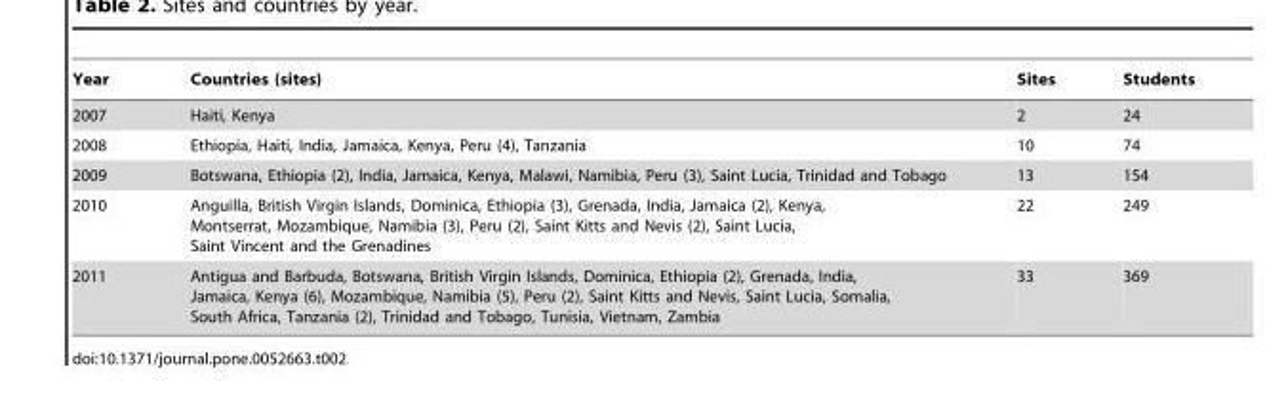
<table><thead><tr><td>Year</td><td>Countries (sites)</td><td>Sites</td><td>Students</td></tr></thead><tbody><tr><td>2007</td><td>Haiti, Kenya</td><td>2</td><td>24</td></tr><tr><td>2008</td><td>Ethiopia, Haiti, India, Jamaica, Kenya, Peru (4), Tanzania</td><td>10</td><td>74</td></tr><tr><td>2009</td><td>Botswana, Ethiopia (2), India, Jamaica, Kenya, Malawi, Namibia, Peru (3), Saint Lucia, Trinidad and Tobago</td><td>13</td><td>154</td></tr><tr><td>2010</td><td>Anguilla, British Virgin Islands, Dominica, Ethiopia (3), Grenada, India, Jamaica (2), Kenya, Montserrat, Mozambique, Namibia (3), Peru (2), Saint Kitts and Nevis (2), Saint Lucia, Saint Vincent and the Grenadines</td><td>22</td><td>249</td></tr><tr><td>2011</td><td>Antigua and Barbuda, Botswana, British Virgin Islands, Dominica, Ethiopia (2), Grenada, India, Jamaica, Kenya (6), Mozambique, Namibia (5), Peru (2), Saint Kitts and Nevis, Saint Lucia, Somalia, South Africa, Tanzania (2), Trinidad and Tobago, Tunisia, Vietnam, Zambia</td><td>33</td><td>369</td></tr></tbody></table>